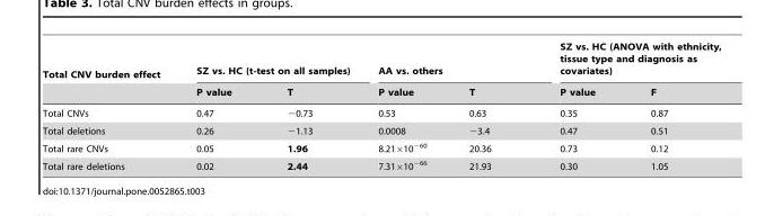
<table><thead><tr><td rowspan="2">Total CNV burden effect</td><td colspan="2">SZ vs. HC (t-test on all samples)</td><td colspan="2">AA vs. others</td><td colspan="2">SZ vs. HC (ANOVA with ethnicity, tissue type and diagnosis as covariates)</td></tr><tr><td>P value</td><td>T</td><td>P value</td><td>T</td><td>P value</td><td>F</td></tr></thead><tbody><tr><td>Total CNVs</td><td>0.47</td><td>−0.73</td><td>0.53</td><td>0.63</td><td>0.35</td><td>0.87</td></tr><tr><td>Total deletions</td><td>0.26</td><td>−1.13</td><td>0.0008</td><td>−3.4</td><td>0.47</td><td>0.51</td></tr><tr><td>Total rare CNVs</td><td>0.05</td><td>1.96</td><td>8.21×10<sup>−60</sup></td><td>20.36</td><td>0.73</td><td>0.12</td></tr><tr><td>Total rare deletions</td><td>0.02</td><td>2.44</td><td>7.31×10<sup>−66</sup></td><td>21.93</td><td>0.30</td><td>1.05</td></tr></tbody></table>